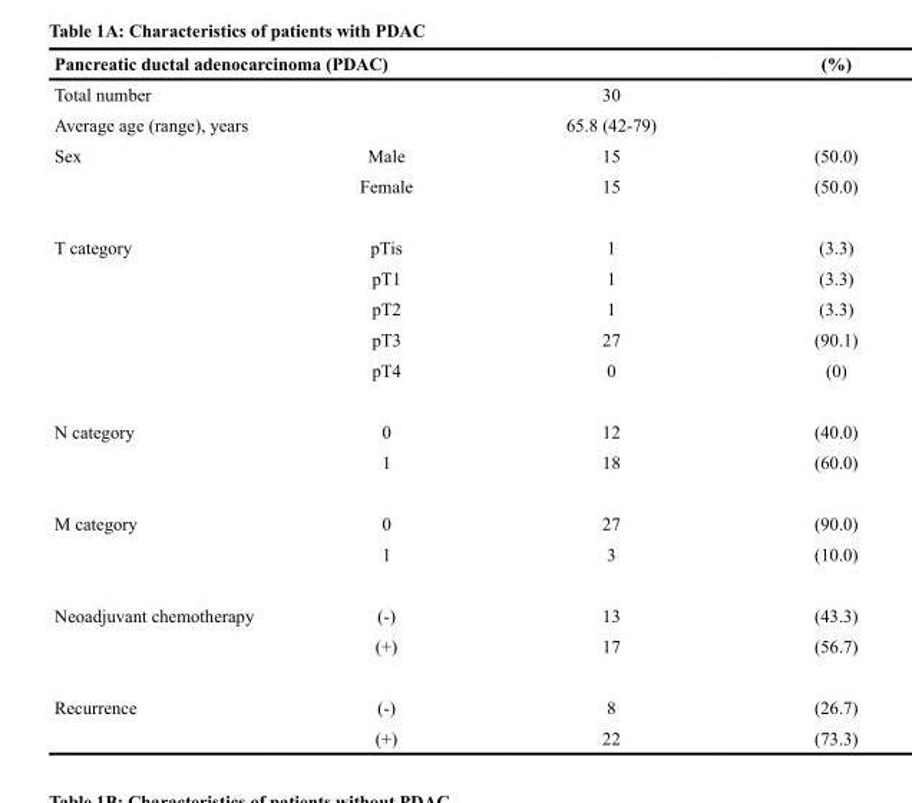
<table><thead><tr><td colspan="3">Pancreatic ductal adenocarcinoma (PDAC)</td><td rowspan="2">(%)</td></tr><tr><td>Total number</td><td></td><td>30</td></tr></thead><tbody><tr><td>Average age (range), years</td><td></td><td>65.8 (42-79)</td><td></td></tr><tr><td rowspan="2">Sex</td><td>Male</td><td>15</td><td>(50.0)</td></tr><tr><td>Female</td><td>15</td><td>(50.0)</td></tr><tr><td rowspan="5">T category</td><td>pTis</td><td>1</td><td>(3.3)</td></tr><tr><td>pT1</td><td>1</td><td>(3.3)</td></tr><tr><td>pT2</td><td>1</td><td>(3.3)</td></tr><tr><td>pT3</td><td>27</td><td>(90.1)</td></tr><tr><td>pT4</td><td>0</td><td>(0)</td></tr><tr><td rowspan="2">N category</td><td>0</td><td>12</td><td>(40.0)</td></tr><tr><td>1</td><td>18</td><td>(60.0)</td></tr><tr><td rowspan="2">M category</td><td>0</td><td>27</td><td>(90.0)</td></tr><tr><td>1</td><td>3</td><td>(10.0)</td></tr><tr><td rowspan="2">Neoadjuvant chemotherapy</td><td>(-)</td><td>13</td><td>(43.3)</td></tr><tr><td>(+)</td><td>17</td><td>(56.7)</td></tr><tr><td rowspan="2">Recurrence</td><td>(-)</td><td>8</td><td>(26.7)</td></tr><tr><td>(+)</td><td>22</td><td>(73.3)</td></tr></tbody></table>